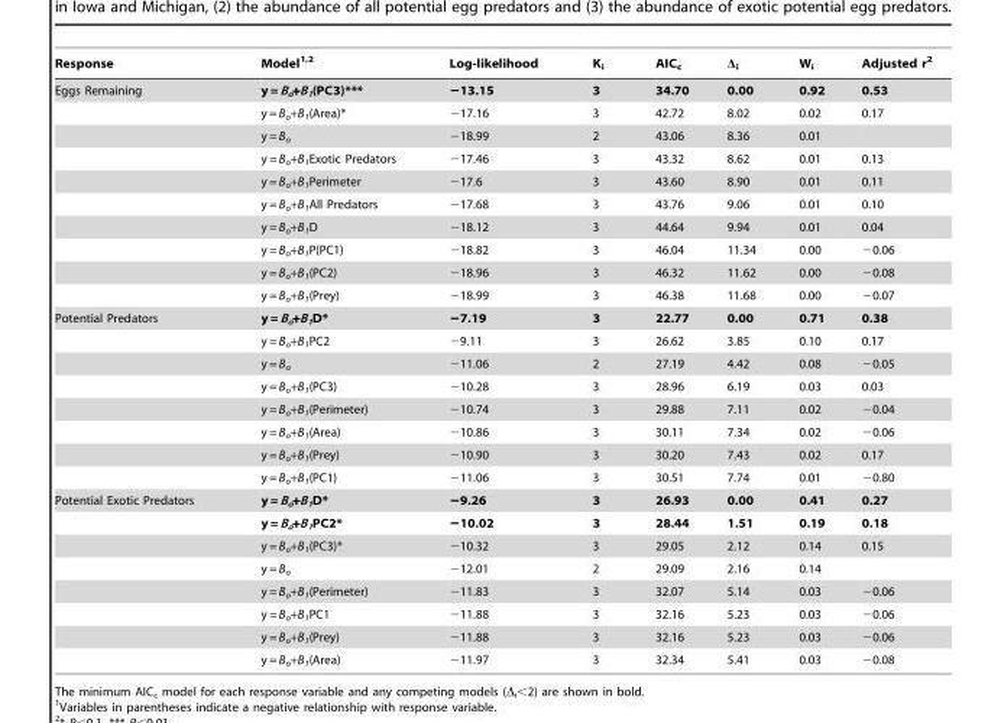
<table><thead><tr><td>Response</td><td>Model<sup>1,</sup>2</td><td>Log-likelihood</td><td>K<sub>i</sub></td><td>AIC<sub>c</sub></td><td>Δ<sub>i</sub></td><td>W<sub>i</sub></td><td>Adjusted r<sup>2</sup></td></tr></thead><tbody><tr><td rowspan="10">Eggs Remaining</td><td>y = B<sub>o</sub>+B<sub>1</sub>(PC3)***</td><td>−13.15</td><td>3</td><td>34.70</td><td>0.00</td><td>0.92</td><td>0.53</td></tr><tr><td>y = B<sub>o</sub>+B<sub>1</sub>(Area)*</td><td>−17.16</td><td>3</td><td>42.72</td><td>8.02</td><td>0.02</td><td>0.17</td></tr><tr><td>y = B<sub>o</sub></td><td>−18.99</td><td>2</td><td>43.06</td><td>8.36</td><td>0.01</td><td></td></tr><tr><td>y = B<sub>o</sub>+B<sub>1</sub>Exotic Predators</td><td>−17.46</td><td>3</td><td>43.32</td><td>8.62</td><td>0.01</td><td>0.13</td></tr><tr><td>y = B<sub>o</sub>+B<sub>1</sub>Perimeter</td><td>−17.6</td><td>3</td><td>43.60</td><td>8.90</td><td>0.01</td><td>0.11</td></tr><tr><td>y = B<sub>o</sub>+B<sub>1</sub>All Predators</td><td>−17.68</td><td>3</td><td>43.76</td><td>9.06</td><td>0.01</td><td>0.10</td></tr><tr><td>y = B<sub>o</sub>+B<sub>1</sub>D</td><td>−18.12</td><td>3</td><td>44.64</td><td>9.94</td><td>0.01</td><td>0.04</td></tr><tr><td>y = B<sub>o</sub>+B<sub>1</sub>P(PC1)</td><td>−18.82</td><td>3</td><td>46.04</td><td>11.34</td><td>0.00</td><td>−0.06</td></tr><tr><td>y = B<sub>o</sub>+B<sub>1</sub>(PC2)</td><td>−18.96</td><td>3</td><td>46.32</td><td>11.62</td><td>0.00</td><td>−0.08</td></tr><tr><td>y = B<sub>o</sub>+B<sub>1</sub>(Prey)</td><td>−18.99</td><td>3</td><td>46.38</td><td>11.68</td><td>0.00</td><td>−0.07</td></tr><tr><td rowspan="8">Potential Predators</td><td>y = B<sub>o</sub>+B<sub>1</sub>D*</td><td>−7.19</td><td>3</td><td>22.77</td><td>0.00</td><td>0.71</td><td>0.38</td></tr><tr><td>y = B<sub>o</sub>+B<sub>1</sub>PC2</td><td>−9.11</td><td>3</td><td>26.62</td><td>3.85</td><td>0.10</td><td>0.17</td></tr><tr><td>y = B<sub>o</sub></td><td>−11.06</td><td>2</td><td>27.19</td><td>4.42</td><td>0.08</td><td>−0.05</td></tr><tr><td>y = B<sub>o</sub>+B<sub>1</sub>(PC3)</td><td>−10.28</td><td>3</td><td>28.96</td><td>6.19</td><td>0.03</td><td>0.03</td></tr><tr><td>y = B<sub>o</sub>+B<sub>1</sub>(Perimeter)</td><td>−10.74</td><td>3</td><td>29.88</td><td>7.11</td><td>0.02</td><td>−0.04</td></tr><tr><td>y = B<sub>o</sub>+B<sub>1</sub>(Area)</td><td>−10.86</td><td>3</td><td>30.11</td><td>7.34</td><td>0.02</td><td>−0.06</td></tr><tr><td>y = B<sub>o</sub>+B<sub>1</sub>(Prey)</td><td>−10.90</td><td>3</td><td>30.20</td><td>7.43</td><td>0.02</td><td>0.17</td></tr><tr><td>y = B<sub>o</sub>+B<sub>1</sub>(PC1)</td><td>−11.06</td><td>3</td><td>30.51</td><td>7.74</td><td>0.01</td><td>−0.80</td></tr><tr><td rowspan="8">Potential Exotic Predators</td><td>y = B<sub>o</sub>+B<sub>1</sub>D*</td><td>−9.26</td><td>3</td><td>26.93</td><td>0.00</td><td>0.41</td><td>0.27</td></tr><tr><td>y = B<sub>o</sub>+B<sub>1</sub>PC2*</td><td>−10.02</td><td>3</td><td>28.44</td><td>1.51</td><td>0.19</td><td>0.18</td></tr><tr><td>y = B<sub>o</sub>+B<sub>1</sub>(PC3)*</td><td>−10.32</td><td>3</td><td>29.05</td><td>2.12</td><td>0.14</td><td>0.15</td></tr><tr><td>y = B<sub>o</sub></td><td>−12.01</td><td>2</td><td>29.09</td><td>2.16</td><td>0.14</td><td></td></tr><tr><td>y = B<sub>o</sub>+B<sub>1</sub>(Perimeter)</td><td>−11.83</td><td>3</td><td>32.07</td><td>5.14</td><td>0.03</td><td>−0.06</td></tr><tr><td>y = B<sub>o</sub>+B<sub>1</sub>PC1</td><td>−11.88</td><td>3</td><td>32.16</td><td>5.23</td><td>0.03</td><td>−0.06</td></tr><tr><td>y = B<sub>o</sub>+B<sub>1</sub>(Prey)</td><td>−11.88</td><td>3</td><td>32.16</td><td>5.23</td><td>0.03</td><td>−0.06</td></tr><tr><td>y = B<sub>o</sub>+B<sub>1</sub>(Area)</td><td>−11.97</td><td>3</td><td>32.34</td><td>5.41</td><td>0.03</td><td>−0.08</td></tr></tbody></table>